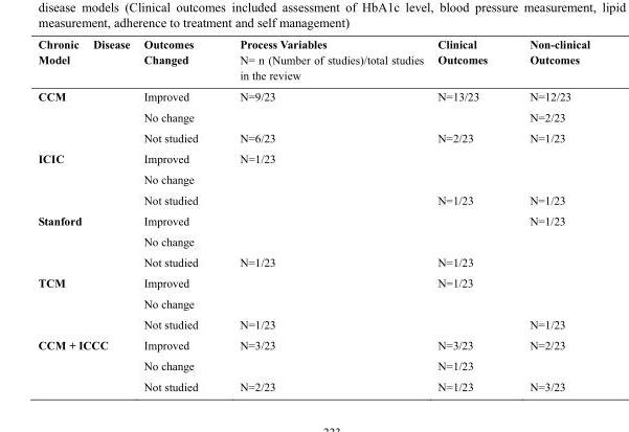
<table><thead><tr><td>Chronic Disease Model</td><td>Outcomes Changed</td><td>Process Variables N= n (Number of studies)/total studies in the review</td><td>Clinical Outcomes</td><td>Non-clinical Outcomes</td></tr></thead><tbody><tr><td rowspan="3">CCM</td><td>Improved</td><td>N=9/23</td><td>N=13/23</td><td>N=12/23</td></tr><tr><td>No change</td><td></td><td></td><td>N=2/23</td></tr><tr><td>Not studied</td><td>N=6/23</td><td>N=2/23</td><td>N=1/23</td></tr><tr><td rowspan="3">ICIC</td><td>Improved</td><td>N=1/23</td><td></td><td></td></tr><tr><td>No change</td><td></td><td></td><td></td></tr><tr><td>Not studied</td><td></td><td>N=1/23</td><td>N=1/23</td></tr><tr><td rowspan="3">Stanford</td><td>Improved</td><td></td><td></td><td>N=1/23</td></tr><tr><td>No change</td><td></td><td></td><td></td></tr><tr><td>Not studied</td><td>N=1/23</td><td>N=1/23</td><td></td></tr><tr><td rowspan="3">TCM</td><td>Improved</td><td></td><td>N=1/23</td><td></td></tr><tr><td>No change</td><td></td><td></td><td></td></tr><tr><td>Not studied</td><td>N=1/23</td><td></td><td>N=1/23</td></tr><tr><td rowspan="3">CCM + ICCC</td><td>Improved</td><td>N=3/23</td><td>N=3/23</td><td>N=2/23</td></tr><tr><td>No change</td><td></td><td>N=1/23</td><td></td></tr><tr><td>Not studied</td><td>N=2/23</td><td>N=1/23</td><td>N=3/23</td></tr></tbody></table>